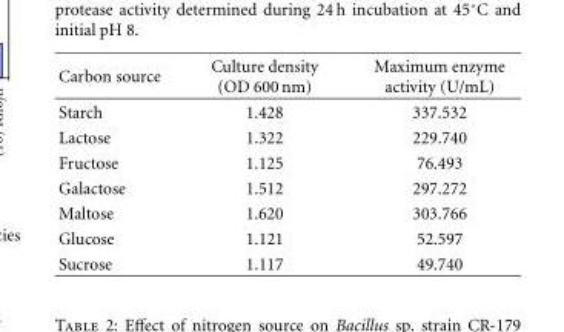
<table><thead><tr><td>Carbon source</td><td>Culture density (OD 600 nm)</td><td>Maximum enzyme activity (U/mL)</td></tr></thead><tbody><tr><td>Starch</td><td>1.428</td><td>337.532</td></tr><tr><td>Lactose</td><td>1.322</td><td>229.740</td></tr><tr><td>Fructose</td><td>1.125</td><td>76.493</td></tr><tr><td>Galactose</td><td>1.512</td><td>297.272</td></tr><tr><td>Maltose</td><td>1.620</td><td>303.766</td></tr><tr><td>Glucose</td><td>1.121</td><td>52.597</td></tr><tr><td>Sucrose</td><td>1.117</td><td>49.740</td></tr></tbody></table>